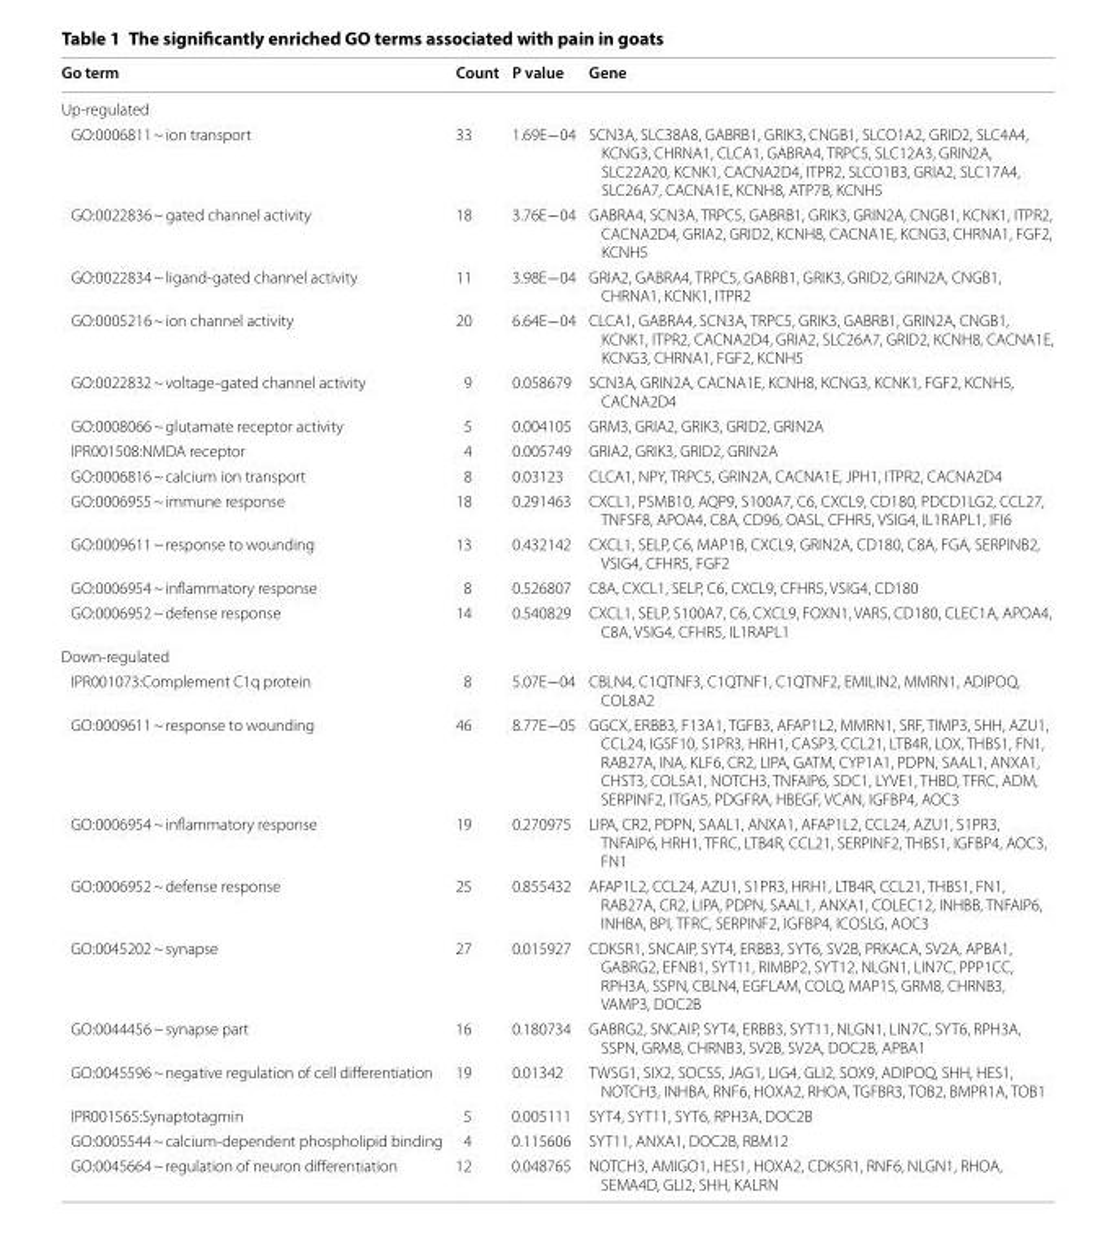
<table><thead><tr><td>Go term</td><td>Count</td><td>P value</td><td>Gene</td></tr></thead><tbody><tr><td colspan="4">Up-regulated</td></tr><tr><td>GO:0006811 ~ ion transport</td><td>33</td><td>1.69E−04</td><td>SCN3A, SLC38A8, GABRB1, GRIK3, CNGB1, SLCO1A2, GRID2, SLC4A4, KCNG3, CHRNA1, CLCA1, GABRA4, TRPC5, SLC12A3, GRIN2A, SLC22A20, KCNK1, CACNA2D4, ITPR2, SLCO1B3, GRIA2, SLC17A4, SLC26A7, CACNA1E, KCNH8, ATP7B, KCNH5</td></tr><tr><td>GO:0022836 ~ gated channel activity</td><td>18</td><td>3.76E−04</td><td>GABRA4, SCN3A, TRPC5, GABRB1, GRIK3, GRIN2A, CNGB1, KCNK1, ITPR2, CACNA2D4, GRIA2, GRID2, KCNH8, CACNA1E, KCNG3, CHRNA1, FGF2, KCNH5</td></tr><tr><td>GO:0022834 ~ ligand-gated channel activity</td><td>11</td><td>3.98E−04</td><td>GRIA2, GABRA4, TRPC5, GABRB1, GRIK3, GRID2, GRIN2A, CNGB1, CHRNA1, KCNK1, ITPR2</td></tr><tr><td>GO:0005216 ~ ion channel activity</td><td>20</td><td>6.64E−04</td><td>CLCA1, GABRA4, SCN3A, TRPC5, GRIK3, GABRB1, GRIN2A, CNGB1, KCNK1, ITPR2, CACNA2D4, GRIA2, SLC26A7, GRID2, KCNH8, CACNA1E, KCNG3, CHRNA1, FGF2, KCNH5</td></tr><tr><td>GO:0022832 ~ voltage-gated channel activity</td><td>9</td><td>0.058679</td><td>SCN3A, GRIN2A, CACNA1E, KCNH8, KCNG3, KCNK1, FGF2, KCNH5, CACNA2D4</td></tr><tr><td>GO:0008066 ~ glutamate receptor activity</td><td>5</td><td>0.004105</td><td>GRM3, GRIA2, GRIK3, GRID2, GRIN2A</td></tr><tr><td>IPR001508:NMDA receptor</td><td>4</td><td>0.005749</td><td>GRIA2, GRIK3, GRID2, GRIN2A</td></tr><tr><td>GO:0006816 ~ calcium ion transport</td><td>8</td><td>0.03123</td><td>CLCA1, NPY, TRPC5, GRIN2A, CACNA1E, JPH1, ITPR2, CACNA2D4</td></tr><tr><td>GO:0006955 ~ immune response</td><td>18</td><td>0.291463</td><td>CXCL1, PSMB10, AQP9, S100A7, C6, CXCL9, CD180, PDCD1LG2, CCL27, TNFSF8, APOA4, C8A, CD96, OASL, CFHR5, VSIG4, IL1RAPL1, IFI6</td></tr><tr><td>GO:0009611 ~ response to wounding</td><td>13</td><td>0.432142</td><td>CXCL1, SELP, C6, MAP1B, CXCL9, GRIN2A, CD180, C8A, FGA, SERPINB2, VSIG4, CFHR5, FGF2</td></tr><tr><td>GO:0006954 ~ inflammatory response</td><td>8</td><td>0.526807</td><td>C8A, CXCL1, SELP, C6, CXCL9, CFHR5, VSIG4, CD180</td></tr><tr><td>GO:0006952 ~ defense response</td><td>14</td><td>0.540829</td><td>CXCL1, SELP, S100A7, C6, CXCL9, FOXN1, VARS, CD180, CLEC1A, APOA4, C8A, VSIG4, CFHR5, IL1RAPL1</td></tr><tr><td colspan="4">Down-regulated</td></tr><tr><td>IPR001073:Complement C1q protein</td><td>8</td><td>5.07E−04</td><td>CBLN4, C1QTNF3, C1QTNF1, C1QTNF2, EMILIN2, MMRN1, ADIPOQ, COL8A2</td></tr><tr><td>GO:0009611 ~ response to wounding</td><td>46</td><td>8.77E−05</td><td>GGCX, ERBB3, F13A1, TGFB3, AFAP1L2, MMRN1, SRF, TIMP3, SHH, AZU1, CCL24, IGSF10, S1PR3, HRH1, CASP3, CCL21, LTB4R, LOX, THBS1, FN1, RAB27A, INA, KLF6, CR2, LIPA, GATM, CYP1A1, PDPN, SAAL1, ANXA1, CHST3, COL5A1, NOTCH3, TNFAIP6, SDC1, LYVE1, THBD, TFRC, ADM, SERPINF2, ITGA5, PDGFRA, HBEGF, VCAN, IGFBP4, AOC3</td></tr><tr><td>GO:0006954 ~ inflammatory response</td><td>19</td><td>0.270975</td><td>LIPA, CR2, PDPN, SAAL1, ANXA1, AFAP1L2, CCL24, AZU1, S1PR3, TNFAIP6, HRH1, TFRC, LTB4R, CCL21, SERPINF2, THBS1, IGFBP4, AOC3, FN1</td></tr><tr><td>GO:0006952 ~ defense response</td><td>25</td><td>0.855432</td><td>AFAP1L2, CCL24, AZU1, S1PR3, HRH1, LTB4R, CCL21, THBS1, FN1, RAB27A, CR2, LIPA, PDPN, SAAL1, ANXA1, COLEC12, INHBB, TNFAIP6, INHBA, BPI, TFRC, SERPINF2, IGFBP4, ICOSLG, AOC3</td></tr><tr><td>GO:0045202 ~ synapse</td><td>27</td><td>0.015927</td><td>CDK5R1, SNCAIP, SYT4, ERBB3, SYT6, SV2B, PRKACA, SV2A, APBA1, GABRG2, EFNB1, SYT11, RIMBP2, SYT12, NLGN1, LIN7C, PPP1CC, RPH3A, SSPN, CBLN4, EGFLAM, COLQ, MAP1S, GRM8, CHRNB3, VAMP3, DOC2B</td></tr><tr><td>GO:0044456 ~ synapse part</td><td>16</td><td>0.180734</td><td>GABRG2, SNCAIP, SYT4, ERBB3, SYT11, NLGN1, LIN7C, SYT6, RPH3A, SSPN, GRM8, CHRNB3, SV2B, SV2A, DOC2B, APBA1</td></tr><tr><td>GO:0045596 ~ negative regulation of cell differentiation</td><td>19</td><td>0.01342</td><td>TWSG1, SIX2, SOCS5, JAG1, LIG4, GLI2, SOX9, ADIPOQ, SHH, HES1, NOTCH3, INHBA, RNF6, HOXA2, RHOA, TGFBR3, TOB2, BMPR1A, TOB1</td></tr><tr><td>IPR001565:Synaptotagmin</td><td>5</td><td>0.005111</td><td>SYT4, SYT11, SYT6, RPH3A, DOC2B</td></tr><tr><td>GO:0005544 ~ calcium-dependent phospholipid binding</td><td>4</td><td>0.115606</td><td>SYT11, ANXA1, DOC2B, RBM12</td></tr><tr><td>GO:0045664 ~ regulation of neuron differentiation</td><td>12</td><td>0.048765</td><td>NOTCH3, AMIGO1, HES1, HOXA2, CDK5R1, RNF6, NLGN1, RHOA, SEMA4D, GLI2, SHH, KALRN</td></tr></tbody></table>